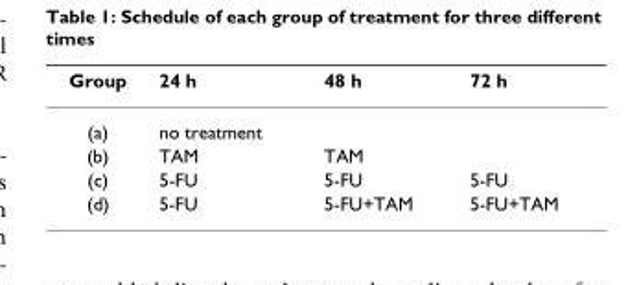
<table><thead><tr><td>Group</td><td>24 h</td><td>48 h</td><td>72 h</td></tr></thead><tbody><tr><td>(a)</td><td>no treatment</td><td></td><td></td></tr><tr><td>(b)</td><td>TAM</td><td>TAM</td><td></td></tr><tr><td>(c)</td><td>5-FU</td><td>5-FU</td><td>5-FU</td></tr><tr><td>(d)</td><td>5-FU</td><td>5-FU+TAM</td><td>5-FU+TAM</td></tr></tbody></table>